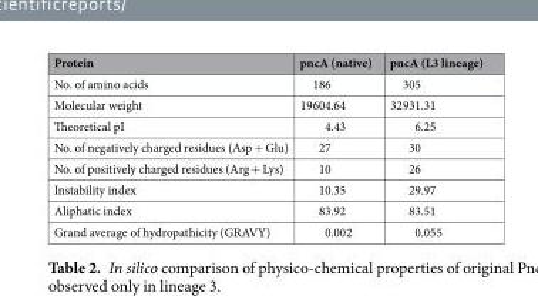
<table><thead><tr><td>Protein</td><td>pncA (native)</td><td>pncA (L3 lineage)</td></tr></thead><tbody><tr><td>No. of amino acids</td><td>186</td><td>305</td></tr><tr><td>Molecular weight</td><td>19604.64</td><td>32931.31</td></tr><tr><td>Theoretical pI</td><td>4.43</td><td>6.25</td></tr><tr><td>No. of negatively charged residues (Asp + Glu)</td><td>27</td><td>30</td></tr><tr><td>No. of positively charged residues (Arg + Lys)</td><td>10</td><td>26</td></tr><tr><td>Instability index</td><td>10.35</td><td>29.97</td></tr><tr><td>Aliphatic index</td><td>83.92</td><td>83.51</td></tr><tr><td>Grand average of hydropathicity (GRAVY)</td><td>0.002</td><td>0.055</td></tr></tbody></table>